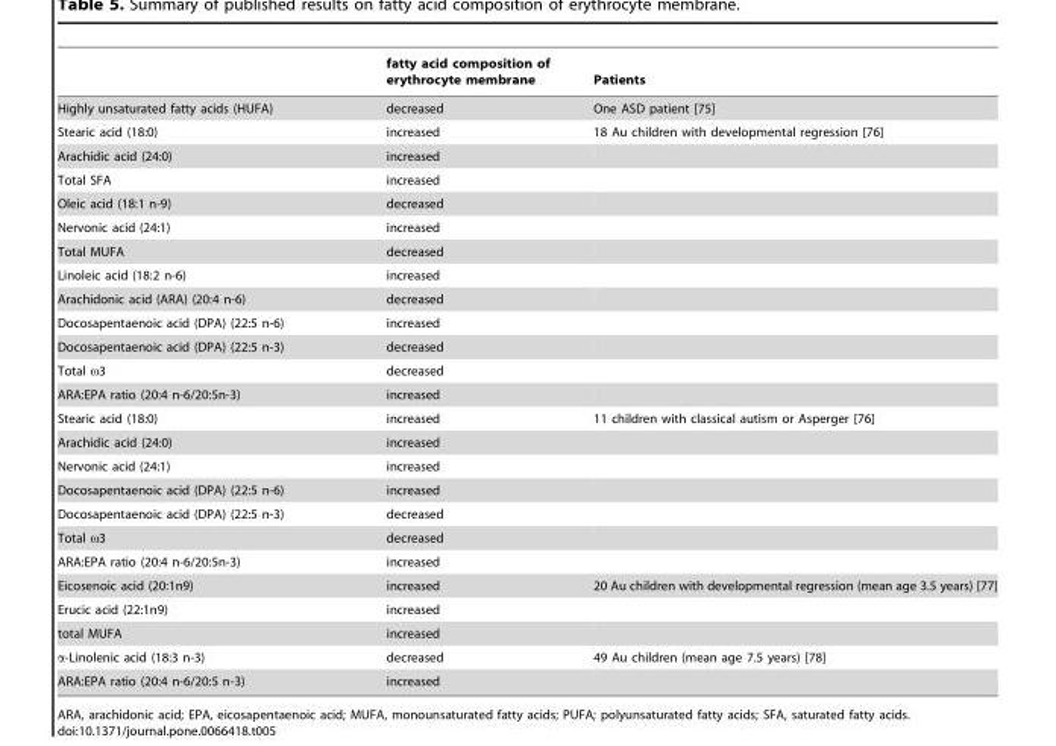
<table><thead><tr><td></td><td>fatty acid composition of erythrocyte membrane</td><td>Patients</td></tr></thead><tbody><tr><td>Highly unsaturated fatty acids (HUFA)</td><td>decreased</td><td>One ASD patient [75]</td></tr><tr><td>Stearic acid (18:0)</td><td>increased</td><td>18 Au children with developmental regression [76]</td></tr><tr><td>Arachidic acid (24:0)</td><td>increased</td><td></td></tr><tr><td>Total SFA</td><td>increased</td><td></td></tr><tr><td>Oleic acid (18:1 n-9)</td><td>decreased</td><td></td></tr><tr><td>Nervonic acid (24:1)</td><td>increased</td><td></td></tr><tr><td>Total MUFA</td><td>decreased</td><td></td></tr><tr><td>Linoleic acid (18:2 n-6)</td><td>increased</td><td></td></tr><tr><td>Arachidonic acid (ARA) (20:4 n-6)</td><td>decreased</td><td></td></tr><tr><td>Docosapentaenoic acid (DPA) (22:5 n-6)</td><td>increased</td><td></td></tr><tr><td>Docosapentaenoic acid (DPA) (22:5 n-3)</td><td>decreased</td><td></td></tr><tr><td>Total ω3</td><td>decreased</td><td></td></tr><tr><td>ARA:EPA ratio (20:4 n-6/20:5n-3)</td><td>increased</td><td></td></tr><tr><td>Stearic acid (18:0)</td><td>increased</td><td>11 children with classical autism or Asperger [76]</td></tr><tr><td>Arachidic acid (24:0)</td><td>increased</td><td></td></tr><tr><td>Nervonic acid (24:1)</td><td>increased</td><td></td></tr><tr><td>Docosapentaenoic acid (DPA) (22:5 n-6)</td><td>increased</td><td></td></tr><tr><td>Docosapentaenoic acid (DPA) (22:5 n-3)</td><td>decreased</td><td></td></tr><tr><td>Total ω3</td><td>decreased</td><td></td></tr><tr><td>ARA:EPA ratio (20:4 n-6/20:5n-3)</td><td>increased</td><td></td></tr><tr><td>Eicosenoic acid (20:1n9)</td><td>increased</td><td>20 Au children with developmental regression (mean age 3.5 years) [77]</td></tr><tr><td>Erucic acid (22:1n9)</td><td>increased</td><td></td></tr><tr><td>total MUFA</td><td>increased</td><td></td></tr><tr><td>α-Linolenic acid (18:3 n-3)</td><td>decreased</td><td>49 Au children (mean age 7.5 years) [78]</td></tr><tr><td>ARA:EPA ratio (20:4 n-6/20:5 n-3)</td><td>increased</td><td></td></tr></tbody></table>